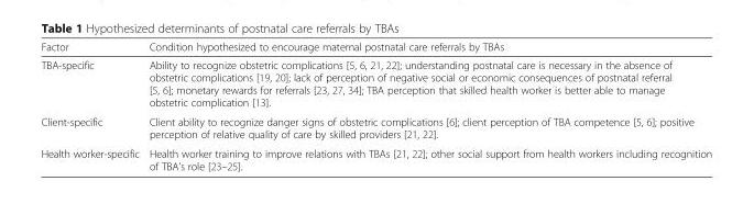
<table><thead><tr><td>Factor</td><td>Condition hypothesized to encourage maternal postnatal care referrals by TBAs</td></tr></thead><tbody><tr><td>TBA-specific</td><td>Ability to recognize obstetric complications [5, 6, 21, 22]; understanding postnatal care is necessary in the absence of obstetric complications [19, 20]; lack of perception of negative social or economic consequences of postnatal referral [5, 6]; monetary rewards for referrals [23, 27, 34]; TBA perception that skilled health worker is better able to manage obstetric complication [13].</td></tr><tr><td>Client-specific</td><td>Client ability to recognize danger signs of obstetric complications [6]; client perception of TBA competence [5, 6]; positive perception of relative quality of care by skilled providers [21, 22].</td></tr><tr><td>Health worker-specific</td><td>Health worker training to improve relations with TBAs [21, 22]; other social support from health workers including recognition of TBA’s role [23–25].</td></tr></tbody></table>